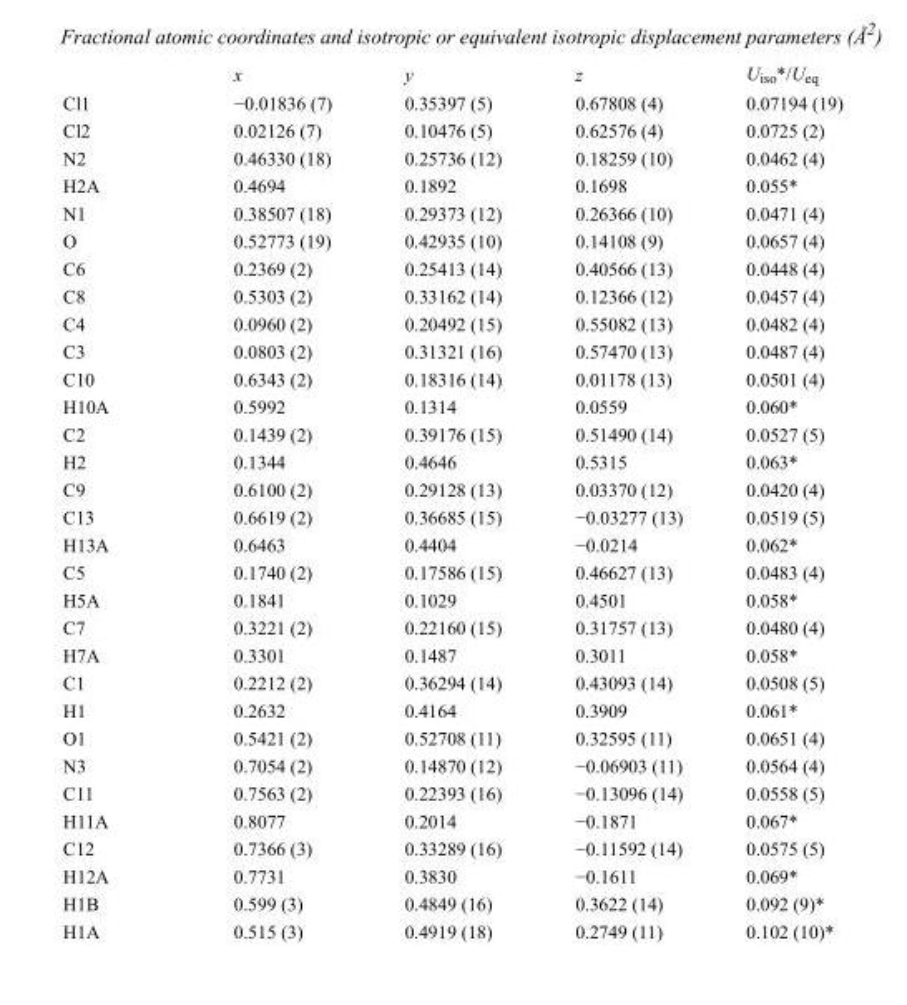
<table><thead><tr><td></td><td>x</td><td>y</td><td>z</td><td>U<sub>iso</sub>*/U<sub>eq</sub></td></tr></thead><tbody><tr><td>Cl1</td><td>−0.01836 (7)</td><td>0.35397 (5)</td><td>0.67808 (4)</td><td>0.07194 (19)</td></tr><tr><td>Cl2</td><td>0.02126 (7)</td><td>0.10476 (5)</td><td>0.62576 (4)</td><td>0.0725 (2)</td></tr><tr><td>N2</td><td>0.46330 (18)</td><td>0.25736 (12)</td><td>0.18259 (10)</td><td>0.0462 (4)</td></tr><tr><td>H2A</td><td>0.4694</td><td>0.1892</td><td>0.1698</td><td>0.055*</td></tr><tr><td>N1</td><td>0.38507 (18)</td><td>0.29373 (12)</td><td>0.26366 (10)</td><td>0.0471 (4)</td></tr><tr><td>O</td><td>0.52773 (19)</td><td>0.42935 (10)</td><td>0.14108 (9)</td><td>0.0657 (4)</td></tr><tr><td>C6</td><td>0.2369 (2)</td><td>0.25413 (14)</td><td>0.40566 (13)</td><td>0.0448 (4)</td></tr><tr><td>C8</td><td>0.5303 (2)</td><td>0.33162 (14)</td><td>0.12366 (12)</td><td>0.0457 (4)</td></tr><tr><td>C4</td><td>0.0960 (2)</td><td>0.20492 (15)</td><td>0.55082 (13)</td><td>0.0482 (4)</td></tr><tr><td>C3</td><td>0.0803 (2)</td><td>0.31321 (16)</td><td>0.57470 (13)</td><td>0.0487 (4)</td></tr><tr><td>C10</td><td>0.6343 (2)</td><td>0.18316 (14)</td><td>0.01178 (13)</td><td>0.0501 (4)</td></tr><tr><td>H10A</td><td>0.5992</td><td>0.1314</td><td>0.0559</td><td>0.060*</td></tr><tr><td>C2</td><td>0.1439 (2)</td><td>0.39176 (15)</td><td>0.51490 (14)</td><td>0.0527 (5)</td></tr><tr><td>H2</td><td>0.1344</td><td>0.4646</td><td>0.5315</td><td>0.063*</td></tr><tr><td>C9</td><td>0.6100 (2)</td><td>0.29128 (13)</td><td>0.03370 (12)</td><td>0.0420 (4)</td></tr><tr><td>C13</td><td>0.6619 (2)</td><td>0.36685 (15)</td><td>−0.03277 (13)</td><td>0.0519 (5)</td></tr><tr><td>H13A</td><td>0.6463</td><td>0.4404</td><td>−0.0214</td><td>0.062*</td></tr><tr><td>C5</td><td>0.1740 (2)</td><td>0.17586 (15)</td><td>0.46627 (13)</td><td>0.0483 (4)</td></tr><tr><td>H5A</td><td>0.1841</td><td>0.1029</td><td>0.4501</td><td>0.058*</td></tr><tr><td>C7</td><td>0.3221 (2)</td><td>0.22160 (15)</td><td>0.31757 (13)</td><td>0.0480 (4)</td></tr><tr><td>H7A</td><td>0.3301</td><td>0.1487</td><td>0.3011</td><td>0.058*</td></tr><tr><td>C1</td><td>0.2212 (2)</td><td>0.36294 (14)</td><td>0.43093 (14)</td><td>0.0508 (5)</td></tr><tr><td>H1</td><td>0.2632</td><td>0.4164</td><td>0.3909</td><td>0.061*</td></tr><tr><td>O1</td><td>0.5421 (2)</td><td>0.52708 (11)</td><td>0.32595 (11)</td><td>0.0651 (4)</td></tr><tr><td>N3</td><td>0.7054 (2)</td><td>0.14870 (12)</td><td>−0.06903 (11)</td><td>0.0564 (4)</td></tr><tr><td>C11</td><td>0.7563 (2)</td><td>0.22393 (16)</td><td>−0.13096 (14)</td><td>0.0558 (5)</td></tr><tr><td>H11A</td><td>0.8077</td><td>0.2014</td><td>−0.1871</td><td>0.067*</td></tr><tr><td>C12</td><td>0.7366 (3)</td><td>0.33289 (16)</td><td>−0.11592 (14)</td><td>0.0575 (5)</td></tr><tr><td>H12A</td><td>0.7731</td><td>0.3830</td><td>−0.1611</td><td>0.069*</td></tr><tr><td>H1B</td><td>0.599 (3)</td><td>0.4849 (16)</td><td>0.3622 (14)</td><td>0.092 (9)*</td></tr><tr><td>H1A</td><td>0.515 (3)</td><td>0.4919 (18)</td><td>0.2749 (11)</td><td>0.102 (10)*</td></tr></tbody></table>